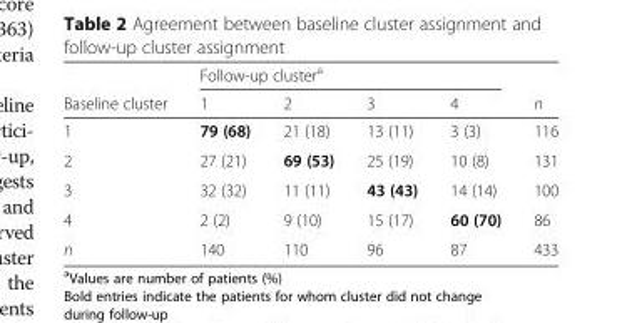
<table><thead><tr><td rowspan="2">Baseline cluster</td><td colspan="4">Follow-up cluster<sup>a</sup></td><td rowspan="2">n</td></tr><tr><td>1</td><td>2</td><td>3</td><td>4</td></tr></thead><tbody><tr><td>1</td><td>79 (68)</td><td>21 (18)</td><td>13 (11)</td><td>3 (3)</td><td>116</td></tr><tr><td>2</td><td>27 (21)</td><td>69 (53)</td><td>25 (19)</td><td>10 (8)</td><td>131</td></tr><tr><td>3</td><td>32 (32)</td><td>11 (11)</td><td>43 (43)</td><td>14 (14)</td><td>100</td></tr><tr><td>4</td><td>2 (2)</td><td>9 (10)</td><td>15 (17)</td><td>60 (70)</td><td>86</td></tr><tr><td>n</td><td>140</td><td>110</td><td>96</td><td>87</td><td>433</td></tr></tbody></table>